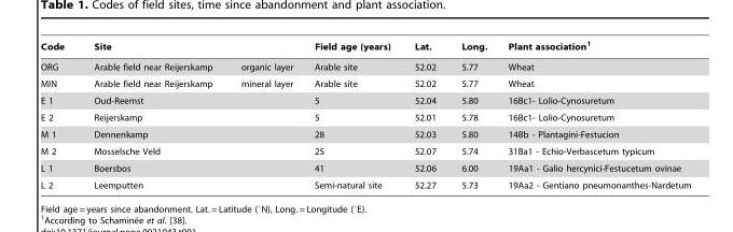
<table><thead><tr><td>Code</td><td>Site</td><td></td><td>Field age (years)</td><td>Lat.</td><td>Long.</td><td>Plant association<sup>1</sup></td></tr></thead><tbody><tr><td>ORG</td><td>Arable field near Reijerskamp</td><td>organic layer</td><td>Arable site</td><td>52.02</td><td>5.77</td><td>Wheat</td></tr><tr><td>MIN</td><td>Arable field near Reijerskamp</td><td>mineral layer</td><td>Arable site</td><td>52.02</td><td>5.77</td><td>Wheat</td></tr><tr><td>E 1</td><td>Oud-Reemst</td><td></td><td>5</td><td>52.04</td><td>5.80</td><td>16Bc1- Lolio-Cynosuretum</td></tr><tr><td>E 2</td><td>Reijerskamp</td><td></td><td>5</td><td>52.01</td><td>5.78</td><td>16Bc1- Lolio-Cynosuretum</td></tr><tr><td>M 1</td><td>Dennenkamp</td><td></td><td>28</td><td>52.03</td><td>5.80</td><td>14Bb - Plantagini-Festucion</td></tr><tr><td>M 2</td><td>Mosselsche Veld</td><td></td><td>25</td><td>52.07</td><td>5.74</td><td>31Ba1 - Echio-Verbascetum typicum</td></tr><tr><td>L 1</td><td>Boersbos</td><td></td><td>41</td><td>52.06</td><td>6.00</td><td>19Aa1 - Galio hercynici-Festucetum ovinae</td></tr><tr><td>L 2</td><td>Leemputten</td><td></td><td>Semi-natural site</td><td>52.27</td><td>5.73</td><td>19Aa2 - Gentiano pneumonanthes-Nardetum</td></tr></tbody></table>